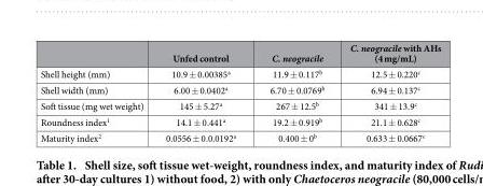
<table><thead><tr><td></td><td>Unfed control</td><td>C. neogracile</td><td>C. neogracile with AHs (4 mg/mL)</td></tr></thead><tbody><tr><td>Shell height (mm)</td><td>10.9 ± 0.00385<sup>a</sup></td><td>11.9 ± 0.117<sup>b</sup></td><td>12.5 ± 0.220<sup>c</sup></td></tr><tr><td>Shell width (mm)</td><td>6.00 ± 0.0402<sup>a</sup></td><td>6.70 ± 0.0769<sup>b</sup></td><td>6.94 ± 0.137<sup>c</sup></td></tr><tr><td>Soft tissue (mg wet weight)</td><td>145 ± 5.27<sup>a</sup></td><td>267 ± 12.5<sup>b</sup></td><td>341 ± 13.9<sup>c</sup></td></tr><tr><td>Roundness index<sup>1</sup></td><td>14.1 ± 0.441<sup>a</sup></td><td>19.2 ± 0.919<sup>b</sup></td><td>21.1 ± 0.628<sup>c</sup></td></tr><tr><td>Maturity index<sup>2</sup></td><td>0.0556 ± 0.0.0192<sup>a</sup></td><td>0.400 ± 0<sup>b</sup></td><td>0.633 ± 0.0667<sup>c</sup></td></tr></tbody></table>